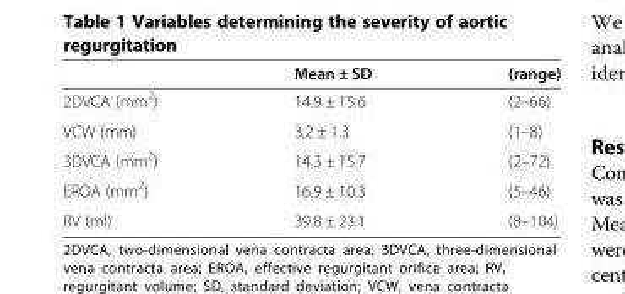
<table><thead><tr><td></td><td>Mean ± SD</td><td>(range)</td></tr></thead><tbody><tr><td>2DVCA (mm<sup>2</sup>)</td><td>14.9 ± 15.6</td><td>(2–66)</td></tr><tr><td>VCW (mm)</td><td>3.2 ± 1.3</td><td>(1–8)</td></tr><tr><td>3DVCA (mm<sup>2</sup>)</td><td>14.3 ± 15.7</td><td>(2–72)</td></tr><tr><td>EROA (mm<sup>2</sup>)</td><td>16.9 ± 10.3</td><td>(5–46)</td></tr><tr><td>RV (ml)</td><td>39.8 ± 23.1</td><td>(8–104)</td></tr></tbody></table>